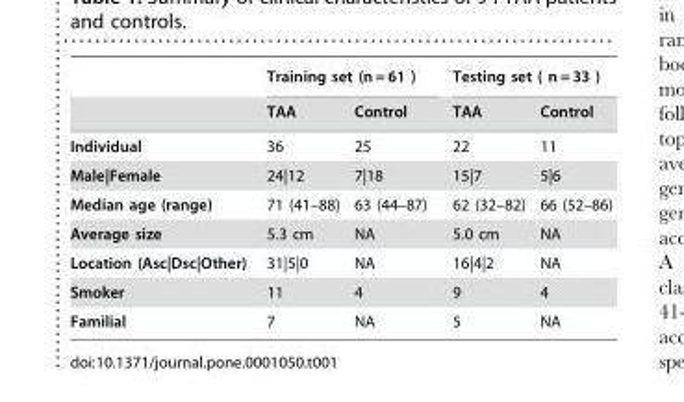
<table><thead><tr><td rowspan="2"></td><td colspan="2">Training set (n = 61 )</td><td colspan="2">Testing set ( n = 33 )</td></tr><tr><td>TAA</td><td>Control</td><td>TAA</td><td>Control</td></tr></thead><tbody><tr><td>Individual</td><td>36</td><td>25</td><td>22</td><td>11</td></tr><tr><td>Male|Female</td><td>24|12</td><td>7|18</td><td>15|7</td><td>5|6</td></tr><tr><td>Median age (range)</td><td>71 (41–88)</td><td>63 (44–87)</td><td>62 (32–82)</td><td>66 (52–86)</td></tr><tr><td>Average size</td><td>5.3 cm</td><td>NA</td><td>5.0 cm</td><td>NA</td></tr><tr><td>Location (Asc|Dsc|Other)</td><td>31|5|0</td><td>NA</td><td>16|4|2</td><td>NA</td></tr><tr><td>Smoker</td><td>11</td><td>4</td><td>9</td><td>4</td></tr><tr><td>Familial</td><td>7</td><td>NA</td><td>5</td><td>NA</td></tr></tbody></table>